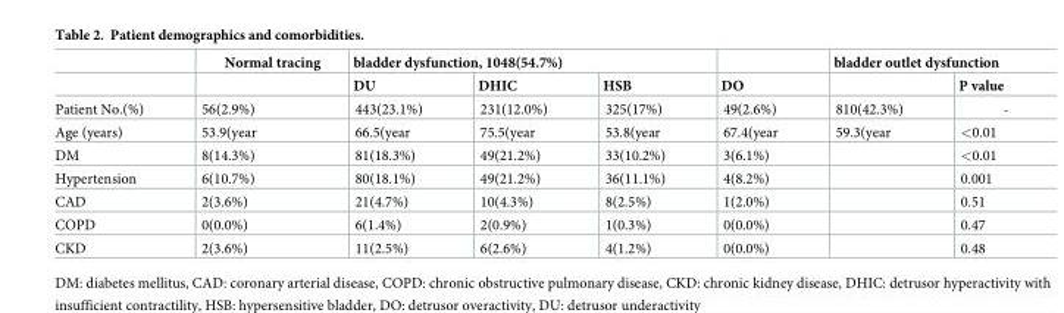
<table><thead><tr><td rowspan="2"></td><td rowspan="2">Normal tracing</td><td colspan="3">bladder dysfunction, 1048(54.7%)</td><td rowspan="2">DO</td><td colspan="2">bladder outlet dysfunction</td></tr><tr><td>DU</td><td>DHIC</td><td>HSB</td><td></td><td>P value</td></tr></thead><tbody><tr><td>Patient No.(%)</td><td>56(2.9%)</td><td>443(23.1%)</td><td>231(12.0%)</td><td>325(17%)</td><td>49(2.6%)</td><td>810(42.3%)</td><td>-</td></tr><tr><td>Age (years)</td><td>53.9(year</td><td>66.5(year</td><td>75.5(year</td><td>53.8(year</td><td>67.4(year</td><td>59.3(year</td><td>&lt;0.01</td></tr><tr><td>DM</td><td>8(14.3%)</td><td>81(18.3%)</td><td>49(21.2%)</td><td>33(10.2%)</td><td>3(6.1%)</td><td></td><td>&lt;0.01</td></tr><tr><td>Hypertension</td><td>6(10.7%)</td><td>80(18.1%)</td><td>49(21.2%)</td><td>36(11.1%)</td><td>4(8.2%)</td><td></td><td>0.001</td></tr><tr><td>CAD</td><td>2(3.6%)</td><td>21(4.7%)</td><td>10(4.3%)</td><td>8(2.5%)</td><td>1(2.0%)</td><td></td><td>0.51</td></tr><tr><td>COPD</td><td>0(0.0%)</td><td>6(1.4%)</td><td>2(0.9%)</td><td>1(0.3%)</td><td>0(0.0%)</td><td></td><td>0.47</td></tr><tr><td>CKD</td><td>2(3.6%)</td><td>11(2.5%)</td><td>6(2.6%)</td><td>4(1.2%)</td><td>0(0.0%)</td><td></td><td>0.48</td></tr></tbody></table>